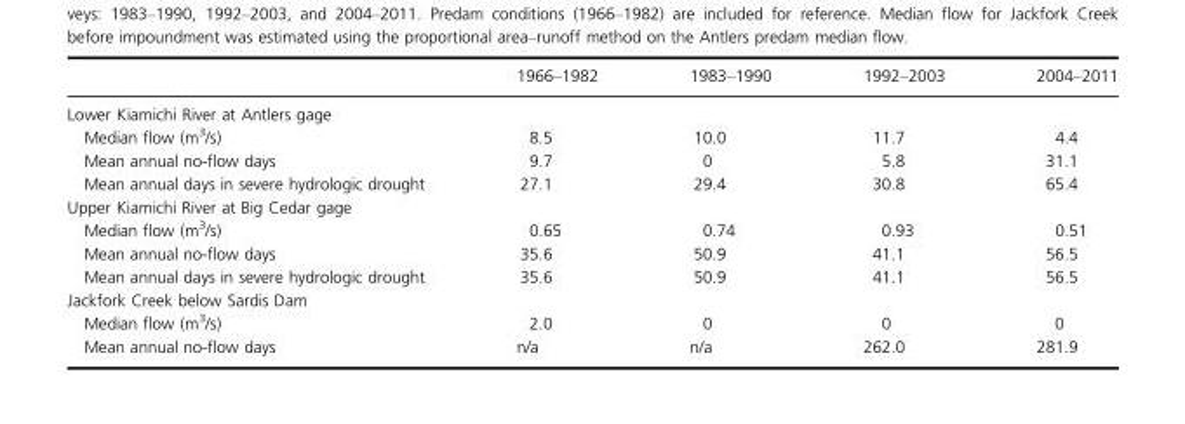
<table><thead><tr><td></td><td>1966–1982</td><td>1983–1990</td><td>1992–2003</td><td>2004–2011</td></tr></thead><tbody><tr><td colspan="5">Lower Kiamichi River at Antlers gage</td></tr><tr><td>Median flow (m<sup>3</sup>/s)</td><td>8.5</td><td>10.0</td><td>11.7</td><td>4.4</td></tr><tr><td>Mean annual no-flow days</td><td>9.7</td><td>0</td><td>5.8</td><td>31.1</td></tr><tr><td>Mean annual days in severe hydrologic drought</td><td>27.1</td><td>29.4</td><td>30.8</td><td>65.4</td></tr><tr><td colspan="5">Upper Kiamichi River at Big Cedar gage</td></tr><tr><td>Median flow (m<sup>3</sup>/s)</td><td>0.65</td><td>0.74</td><td>0.93</td><td>0.51</td></tr><tr><td>Mean annual no-flow days</td><td>35.6</td><td>50.9</td><td>41.1</td><td>56.5</td></tr><tr><td>Mean annual days in severe hydrologic drought</td><td>35.6</td><td>50.9</td><td>41.1</td><td>56.5</td></tr><tr><td colspan="5">Jackfork Creek below Sardis Dam</td></tr><tr><td>Median flow (m<sup>3</sup>/s)</td><td>2.0</td><td>0</td><td>0</td><td>0</td></tr><tr><td>Mean annual no-flow days</td><td>n/a</td><td>n/a</td><td>262.0</td><td>281.9</td></tr></tbody></table>